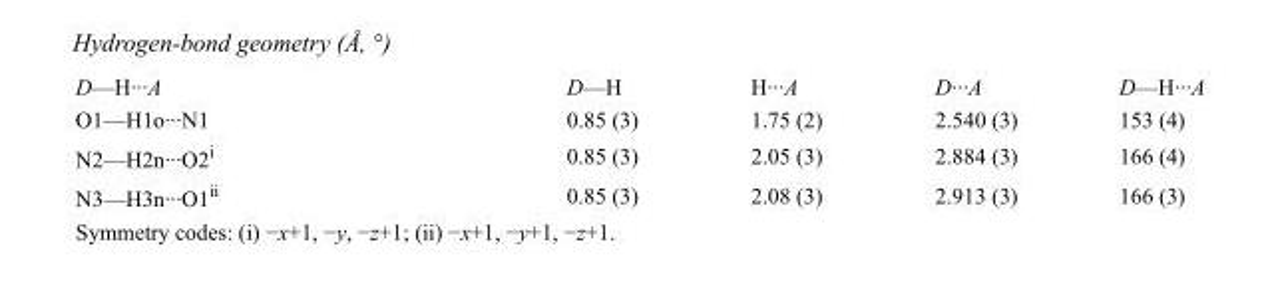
<table><tbody><tr><td>D—H···A</td><td>D—H</td><td>H···A</td><td>D···A</td><td>D—H···A</td></tr><tr><td>O1—H1o···N1</td><td>0.85 (3)</td><td>1.75 (2)</td><td>2.540 (3)</td><td>153 (4)</td></tr><tr><td>N2—H2n···O2<sup>i</sup></td><td>0.85 (3)</td><td>2.05 (3)</td><td>2.884 (3)</td><td>166 (4)</td></tr><tr><td>N3—H3n···O1<sup>ii</sup></td><td>0.85 (3)</td><td>2.08 (3)</td><td>2.913 (3)</td><td>166 (3)</td></tr></tbody></table>